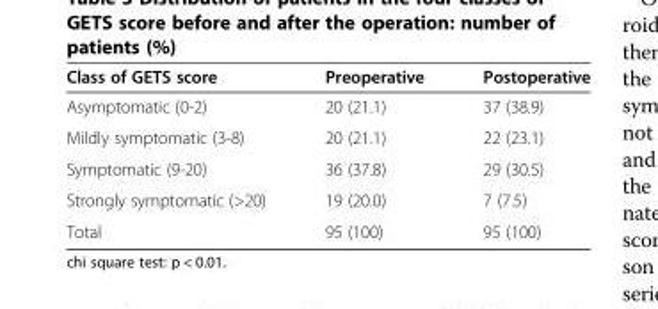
<table><thead><tr><td>Class of GETS score</td><td>Preoperative</td><td>Postoperative</td></tr></thead><tbody><tr><td>Asymptomatic (0-2)</td><td>20 (21.1)</td><td>37 (38.9)</td></tr><tr><td>Mildly symptomatic (3-8)</td><td>20 (21.1)</td><td>22 (23.1)</td></tr><tr><td>Symptomatic (9-20)</td><td>36 (37.8)</td><td>29 (30.5)</td></tr><tr><td>Strongly symptomatic (&gt;20)</td><td>19 (20.0)</td><td>7 (7.5)</td></tr><tr><td>Total</td><td>95 (100)</td><td>95 (100)</td></tr></tbody></table>